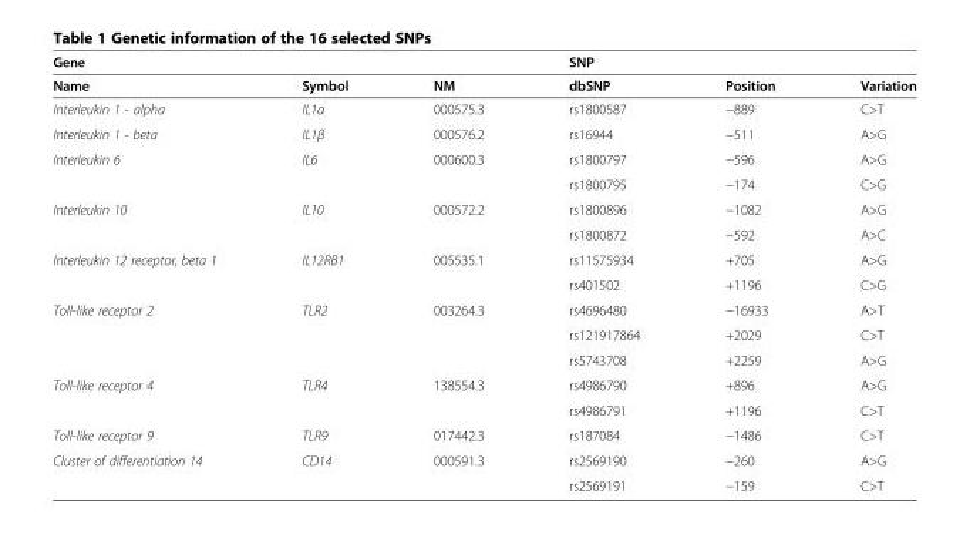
<table><thead><tr><td>Gene</td><td></td><td></td><td>SNP</td><td></td><td></td></tr></thead><tbody><tr><td>Name</td><td>Symbol</td><td>NM</td><td>dbSNP</td><td>Position</td><td>Variation</td></tr><tr><td>Interleukin 1 - alpha</td><td>IL1α</td><td>000575.3</td><td>rs1800587</td><td>−889</td><td>C&gt;T</td></tr><tr><td>Interleukin 1 - beta</td><td>IL1β</td><td>000576.2</td><td>rs16944</td><td>−511</td><td>A&gt;G</td></tr><tr><td rowspan="2">Interleukin 6</td><td rowspan="2">IL6</td><td rowspan="2">000600.3</td><td>rs1800797</td><td>−596</td><td>A&gt;G</td></tr><tr><td>rs1800795</td><td>−174</td><td>C&gt;G</td></tr><tr><td rowspan="2">Interleukin 10</td><td rowspan="2">IL10</td><td rowspan="2">000572.2</td><td>rs1800896</td><td>−1082</td><td>A&gt;G</td></tr><tr><td>rs1800872</td><td>−592</td><td>A&gt;C</td></tr><tr><td rowspan="2">Interleukin 12 receptor, beta 1</td><td rowspan="2">IL12RB1</td><td rowspan="2">005535.1</td><td>rs11575934</td><td>+705</td><td>A&gt;G</td></tr><tr><td>rs401502</td><td>+1196</td><td>C&gt;G</td></tr><tr><td rowspan="3">Toll-like receptor 2</td><td rowspan="3">TLR2</td><td rowspan="3">003264.3</td><td>rs4696480</td><td>−16933</td><td>A&gt;T</td></tr><tr><td>rs121917864</td><td>+2029</td><td>C&gt;T</td></tr><tr><td>rs5743708</td><td>+2259</td><td>A&gt;G</td></tr><tr><td rowspan="2">Toll-like receptor 4</td><td rowspan="2">TLR4</td><td rowspan="2">138554.3</td><td>rs4986790</td><td>+896</td><td>A&gt;G</td></tr><tr><td>rs4986791</td><td>+1196</td><td>C&gt;T</td></tr><tr><td>Toll-like receptor 9</td><td>TLR9</td><td>017442.3</td><td>rs187084</td><td>−1486</td><td>C&gt;T</td></tr><tr><td rowspan="2">Cluster of differentiation 14</td><td>CD14</td><td>000591.3</td><td>rs2569190</td><td>−260</td><td>A&gt;G</td></tr><tr><td></td><td></td><td>rs2569191</td><td>−159</td><td>C&gt;T</td></tr></tbody></table>